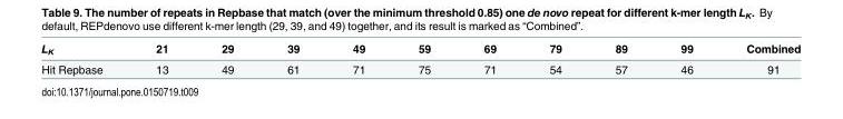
<table><thead><tr><td>L<sub>K</sub></td><td>21</td><td>29</td><td>39</td><td>49</td><td>59</td><td>69</td><td>79</td><td>89</td><td>99</td><td>Combined</td></tr></thead><tbody><tr><td>Hit Repbase</td><td>13</td><td>49</td><td>61</td><td>71</td><td>75</td><td>71</td><td>54</td><td>57</td><td>46</td><td>91</td></tr></tbody></table>